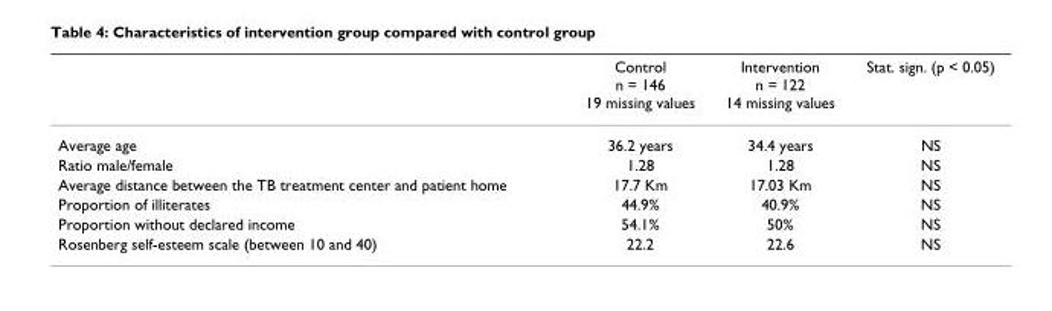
<table><thead><tr><td></td><td>Control n = 146 19 missing values</td><td>Intervention n = 122 14 missing values</td><td>Stat. sign. (p &lt; 0.05)</td></tr></thead><tbody><tr><td>Average age</td><td>36.2 years</td><td>34.4 years</td><td>NS</td></tr><tr><td>Ratio male/female</td><td>1.28</td><td>1.28</td><td>NS</td></tr><tr><td>Average distance between the TB treatment center and patient home</td><td>17.7 Km</td><td>17.03 Km</td><td>NS</td></tr><tr><td>Proportion of illiterates</td><td>44.9%</td><td>40.9%</td><td>NS</td></tr><tr><td>Proportion without declared income</td><td>54.1%</td><td>50%</td><td>NS</td></tr><tr><td>Rosenberg self-esteem scale (between 10 and 40)</td><td>22.2</td><td>22.6</td><td>NS</td></tr></tbody></table>